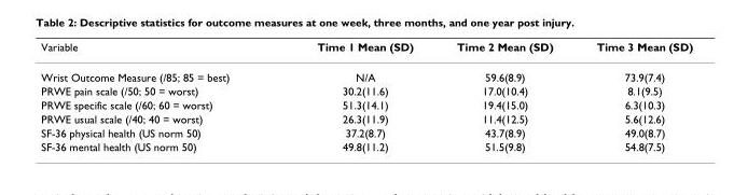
<table><thead><tr><td>Variable</td><td>Time 1 Mean (SD)</td><td>Time 2 Mean (SD)</td><td>Time 3 Mean (SD)</td></tr></thead><tbody><tr><td>Wrist Outcome Measure (/85; 85 = best)</td><td>N/A</td><td>59.6(8.9)</td><td>73.9(7.4)</td></tr><tr><td>PRWE pain scale (/50; 50 = worst)</td><td>30.2(11.6)</td><td>17.0(10.4)</td><td>8.1(9.5)</td></tr><tr><td>PRWE specific scale (/60; 60 = worst)</td><td>51.3(14.1)</td><td>19.4(15.0)</td><td>6.3(10.3)</td></tr><tr><td>PRWE usual scale (/40; 40 = worst)</td><td>26.3(11.9)</td><td>11.4(12.5)</td><td>5.6(12.6)</td></tr><tr><td>SF-36 physical health (US norm 50)</td><td>37.2(8.7)</td><td>43.7(8.9)</td><td>49.0(8.7)</td></tr><tr><td>SF-36 mental health (US norm 50)</td><td>49.8(11.2)</td><td>51.5(9.8)</td><td>54.8(7.5)</td></tr></tbody></table>